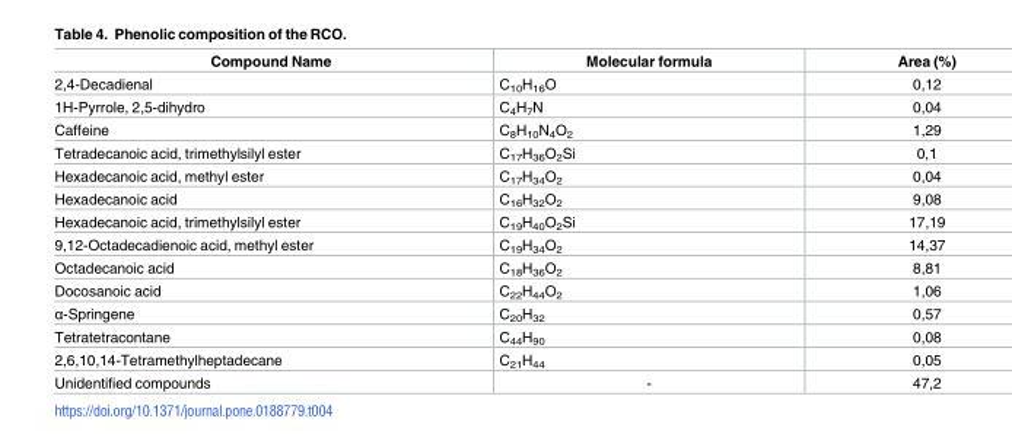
<table><thead><tr><td>Compound Name</td><td>Molecular formula</td><td>Area (%)</td></tr></thead><tbody><tr><td>2,4-Decadienal</td><td>C<sub>10</sub>H<sub>16</sub>O</td><td>0,12</td></tr><tr><td>1H-Pyrrole, 2,5-dihydro</td><td>C<sub>4</sub>H<sub>7</sub>N</td><td>0,04</td></tr><tr><td>Caffeine</td><td>C<sub>8</sub>H<sub>10</sub>N<sub>4</sub>O<sub>2</sub></td><td>1,29</td></tr><tr><td>Tetradecanoic acid, trimethylsilyl ester</td><td>C<sub>17</sub>H<sub>36</sub>O<sub>2</sub>Si</td><td>0,1</td></tr><tr><td>Hexadecanoic acid, methyl ester</td><td>C<sub>17</sub>H<sub>34</sub>O<sub>2</sub></td><td>0,04</td></tr><tr><td>Hexadecanoic acid</td><td>C<sub>16</sub>H<sub>32</sub>O<sub>2</sub></td><td>9,08</td></tr><tr><td>Hexadecanoic acid, trimethylsilyl ester</td><td>C<sub>19</sub>H<sub>40</sub>O<sub>2</sub>Si</td><td>17,19</td></tr><tr><td>9,12-Octadecadienoic acid, methyl ester</td><td>C<sub>19</sub>H<sub>34</sub>O<sub>2</sub></td><td>14,37</td></tr><tr><td>Octadecanoic acid</td><td>C<sub>18</sub>H<sub>36</sub>O<sub>2</sub></td><td>8,81</td></tr><tr><td>Docosanoic acid</td><td>C<sub>22</sub>H<sub>44</sub>O<sub>2</sub></td><td>1,06</td></tr><tr><td>α-Springene</td><td>C<sub>20</sub>H<sub>32</sub></td><td>0,57</td></tr><tr><td>Tetratetracontane</td><td>C<sub>44</sub>H<sub>90</sub></td><td>0,08</td></tr><tr><td>2,6,10,14-Tetramethylheptadecane</td><td>C<sub>21</sub>H<sub>44</sub></td><td>0,05</td></tr><tr><td>Unidentified compounds</td><td>-</td><td>47,2</td></tr></tbody></table>